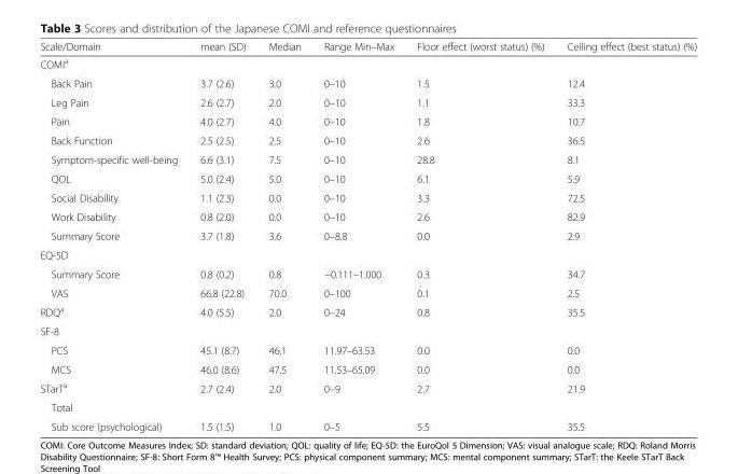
<table><thead><tr><td>Scale/Domain</td><td>mean (SD)</td><td>Median</td><td>Range Min–Max</td><td>Floor effect (worst status) (%)</td><td>Ceiling effect (best status) (%)</td></tr></thead><tbody><tr><td colspan="6">COMI<sup>a</sup></td></tr><tr><td>Back Pain</td><td>3.7 (2.6)</td><td>3.0</td><td>0–10</td><td>1.5</td><td>12.4</td></tr><tr><td>Leg Pain</td><td>2.6 (2.7)</td><td>2.0</td><td>0–10</td><td>1.1</td><td>33.3</td></tr><tr><td>Pain</td><td>4.0 (2.7)</td><td>4.0</td><td>0–10</td><td>1.8</td><td>10.7</td></tr><tr><td>Back Function</td><td>2.5 (2.5)</td><td>2.5</td><td>0–10</td><td>2.6</td><td>36.5</td></tr><tr><td>Symptom-specific well-being</td><td>6.6 (3.1)</td><td>7.5</td><td>0–10</td><td>28.8</td><td>8.1</td></tr><tr><td>QOL</td><td>5.0 (2.4)</td><td>5.0</td><td>0–10</td><td>6.1</td><td>5.9</td></tr><tr><td>Social Disability</td><td>1.1 (2.3)</td><td>0.0</td><td>0–10</td><td>3.3</td><td>72.5</td></tr><tr><td>Work Disability</td><td>0.8 (2.0)</td><td>0.0</td><td>0–10</td><td>2.6</td><td>82.9</td></tr><tr><td>Summary Score</td><td>3.7 (1.8)</td><td>3.6</td><td>0–8.8</td><td>0.0</td><td>2.9</td></tr><tr><td colspan="6">EQ-5D</td></tr><tr><td>Summary Score</td><td>0.8 (0.2)</td><td>0.8</td><td>−0.111–1.000</td><td>0.3</td><td>34.7</td></tr><tr><td>VAS</td><td>66.8 (22.8)</td><td>70.0</td><td>0–100</td><td>0.1</td><td>2.5</td></tr><tr><td>RDQ<sup>a</sup></td><td>4.0 (5.5)</td><td>2.0</td><td>0–24</td><td>0.8</td><td>35.5</td></tr><tr><td colspan="6">SF-8</td></tr><tr><td>PCS</td><td>45.1 (8.7)</td><td>46.1</td><td>11.97–63.53</td><td>0.0</td><td>0.0</td></tr><tr><td>MCS</td><td>46.0 (8.6)</td><td>47.5</td><td>11.53–65.09</td><td>0.0</td><td>0.0</td></tr><tr><td>STarT<sup>a</sup></td><td>2.7 (2.4)</td><td>2.0</td><td>0–9</td><td>2.7</td><td>21.9</td></tr><tr><td colspan="6">Total</td></tr><tr><td>Sub score (psychological)</td><td>1.5 (1.5)</td><td>1.0</td><td>0–5</td><td>5.5</td><td>35.5</td></tr></tbody></table>